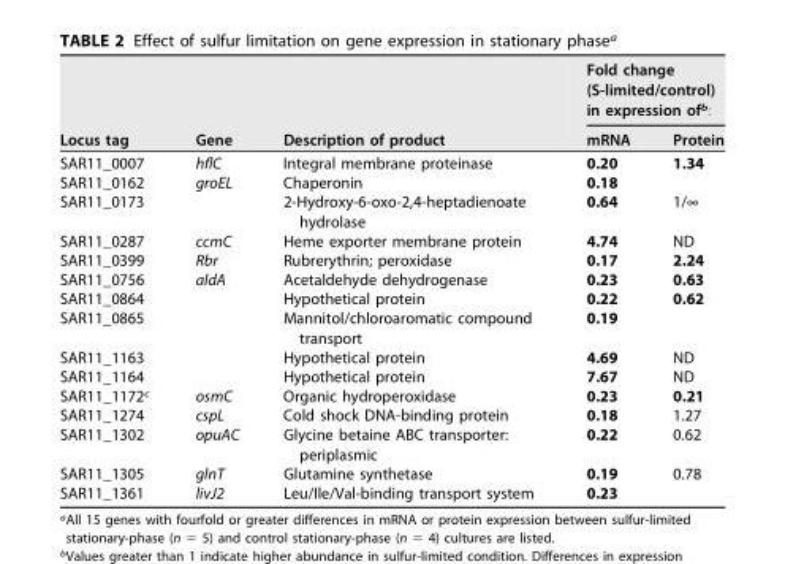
<table><thead><tr><td rowspan="2">Locus tag</td><td rowspan="2">Gene</td><td rowspan="2">Description of product</td><td colspan="2">Fold change (S-limited/control) in expression of<sup>b</sup>:</td></tr><tr><td>mRNA</td><td>Protein</td></tr></thead><tbody><tr><td>SAR11_0007</td><td>hflC</td><td>Integral membrane proteinase</td><td>0.20</td><td>1.34</td></tr><tr><td>SAR11_0162</td><td>groEL</td><td>Chaperonin</td><td>0.18</td><td></td></tr><tr><td>SAR11_0173</td><td></td><td>2-Hydroxy-6-oxo-2,4-heptadienoate hydrolase</td><td>0.64</td><td>1/∞</td></tr><tr><td>SAR11_0287</td><td>ccmC</td><td>Heme exporter membrane protein</td><td>4.74</td><td>ND</td></tr><tr><td>SAR11_0399</td><td>Rbr</td><td>Rubrerythrin; peroxidase</td><td>0.17</td><td>2.24</td></tr><tr><td>SAR11_0756</td><td>aldA</td><td>Acetaldehyde dehydrogenase</td><td>0.23</td><td>0.63</td></tr><tr><td>SAR11_0864</td><td></td><td>Hypothetical protein</td><td>0.22</td><td>0.62</td></tr><tr><td>SAR11_0865</td><td></td><td>Mannitol/chloroaromatic compound transport</td><td>0.19</td><td></td></tr><tr><td>SAR11_1163</td><td></td><td>Hypothetical protein</td><td>4.69</td><td>ND</td></tr><tr><td>SAR11_1164</td><td></td><td>Hypothetical protein</td><td>7.67</td><td>ND</td></tr><tr><td>SAR11_1172<sup>c</sup></td><td>osmC</td><td>Organic hydroperoxidase</td><td>0.23</td><td>0.21</td></tr><tr><td>SAR11_1274</td><td>cspL</td><td>Cold shock DNA-binding protein</td><td>0.18</td><td>1.27</td></tr><tr><td>SAR11_1302</td><td>opuAC</td><td>Glycine betaine ABC transporter: periplasmic</td><td>0.22</td><td>0.62</td></tr><tr><td>SAR11_1305</td><td>glnT</td><td>Glutamine synthetase</td><td>0.19</td><td>0.78</td></tr><tr><td>SAR11_1361</td><td>livJ2</td><td>Leu/Ile/Val-binding transport system</td><td>0.23</td><td></td></tr></tbody></table>